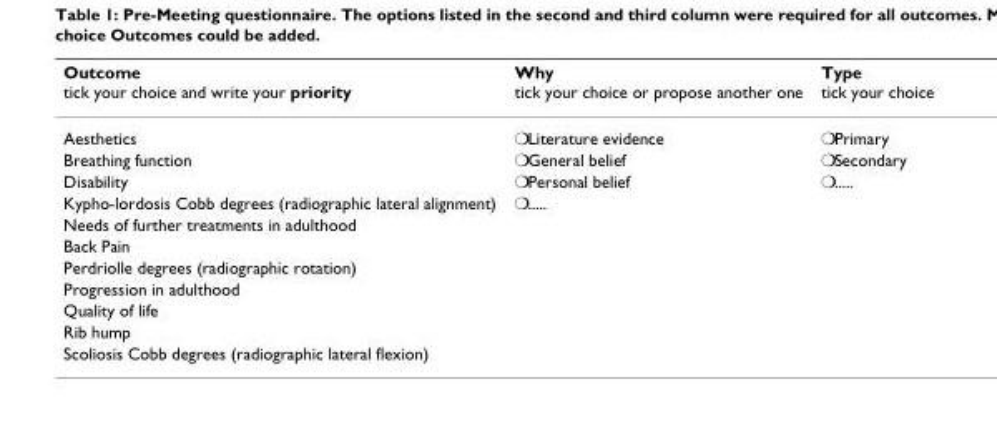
<table><thead><tr><td>Outcome tick your choice and write your priority</td><td>Why tick your choice or propose another one</td><td>Type tick your choice</td></tr></thead><tbody><tr><td>Aesthetics</td><td>❍Literature evidence</td><td>❍Primary</td></tr><tr><td>Breathing function</td><td>❍General belief</td><td>❍Secondary</td></tr><tr><td>Disability</td><td>❍Personal belief</td><td>❍.....</td></tr><tr><td>Kypho-lordosis Cobb degrees (radiographic lateral alignment)</td><td>❍.....</td><td></td></tr><tr><td colspan="3">Needs of further treatments in adulthood</td></tr><tr><td colspan="3">Back Pain</td></tr><tr><td colspan="3">Perdriolle degrees (radiographic rotation)</td></tr><tr><td colspan="3">Progression in adulthood</td></tr><tr><td colspan="3">Quality of life</td></tr><tr><td colspan="3">Rib hump</td></tr><tr><td>Scoliosis Cobb degrees (radiographic lateral flexion)</td><td></td><td></td></tr></tbody></table>